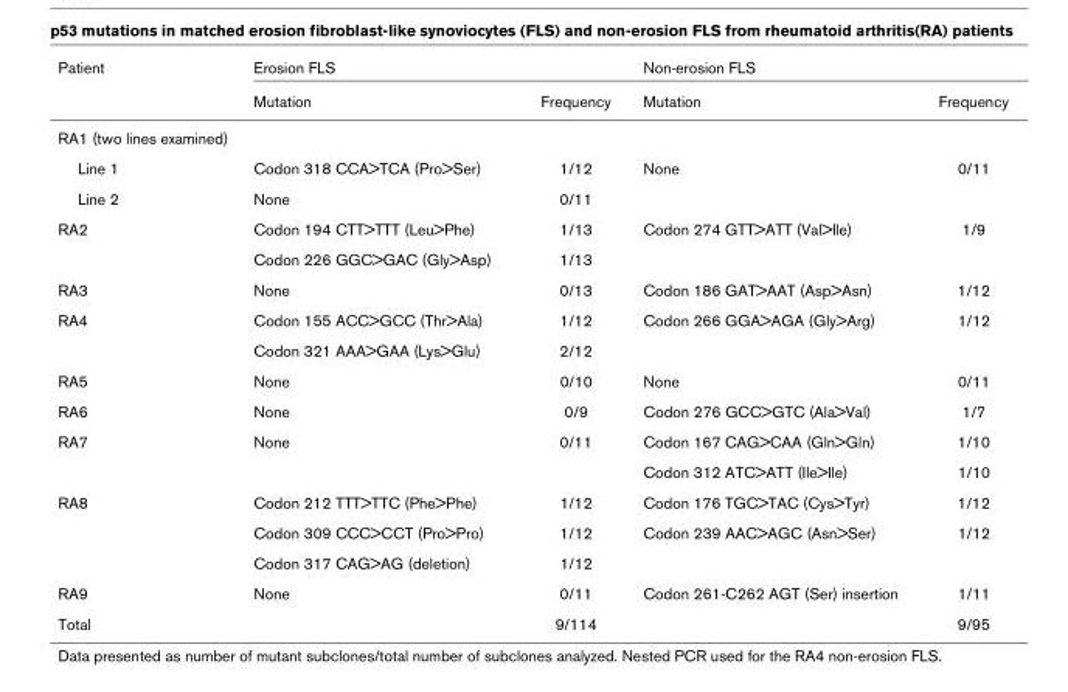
<table><thead><tr><td rowspan="2">Patient</td><td colspan="2">Erosion FLS</td><td colspan="2">Non-erosion FLS</td></tr><tr><td>Mutation</td><td>Frequency</td><td>Mutation</td><td>Frequency</td></tr></thead><tbody><tr><td colspan="5">RA1 (two lines examined)</td></tr><tr><td>Line 1</td><td>Codon 318 CCA&gt;TCA (Pro&gt;Ser)</td><td>1/12</td><td>None</td><td>0/11</td></tr><tr><td>Line 2</td><td>None</td><td>0/11</td><td></td><td></td></tr><tr><td rowspan="2">RA2</td><td>Codon 194 CTT&gt;TTT (Leu&gt;Phe)</td><td>1/13</td><td>Codon 274 GTT&gt;ATT (Val&gt;Ile)</td><td>1/9</td></tr><tr><td>Codon 226 GGC&gt;GAC (Gly&gt;Asp)</td><td>1/13</td><td></td><td></td></tr><tr><td>RA3</td><td>None</td><td>0/13</td><td>Codon 186 GAT&gt;AAT (Asp&gt;Asn)</td><td>1/12</td></tr><tr><td rowspan="2">RA4</td><td>Codon 155 ACC&gt;GCC (Thr&gt;Ala)</td><td>1/12</td><td>Codon 266 GGA&gt;AGA (Gly&gt;Arg)</td><td>1/12</td></tr><tr><td>Codon 321 AAA&gt;GAA (Lys&gt;Glu)</td><td>2/12</td><td></td><td></td></tr><tr><td>RA5</td><td>None</td><td>0/10</td><td>None</td><td>0/11</td></tr><tr><td>RA6</td><td>None</td><td>0/9</td><td>Codon 276 GCC&gt;GTC (Ala&gt;Val)</td><td>1/7</td></tr><tr><td rowspan="2">RA7</td><td>None</td><td>0/11</td><td>Codon 167 CAG&gt;CAA (Gln&gt;Gln)</td><td>1/10</td></tr><tr><td></td><td></td><td>Codon 312 ATC&gt;ATT (Ile&gt;Ile)</td><td>1/10</td></tr><tr><td rowspan="3">RA8</td><td>Codon 212 TTT&gt;TTC (Phe&gt;Phe)</td><td>1/12</td><td>Codon 176 TGC&gt;TAC (Cys&gt;Tyr)</td><td>1/12</td></tr><tr><td>Codon 309 CCC&gt;CCT (Pro&gt;Pro)</td><td>1/12</td><td>Codon 239 AAC&gt;AGC (Asn&gt;Ser)</td><td>1/12</td></tr><tr><td>Codon 317 CAG&gt;AG (deletion)</td><td>1/12</td><td></td><td></td></tr><tr><td>RA9</td><td>None</td><td>0/11</td><td>Codon 261-C262 AGT (Ser) insertion</td><td>1/11</td></tr><tr><td>Total</td><td></td><td>9/114</td><td></td><td>9/95</td></tr></tbody></table>